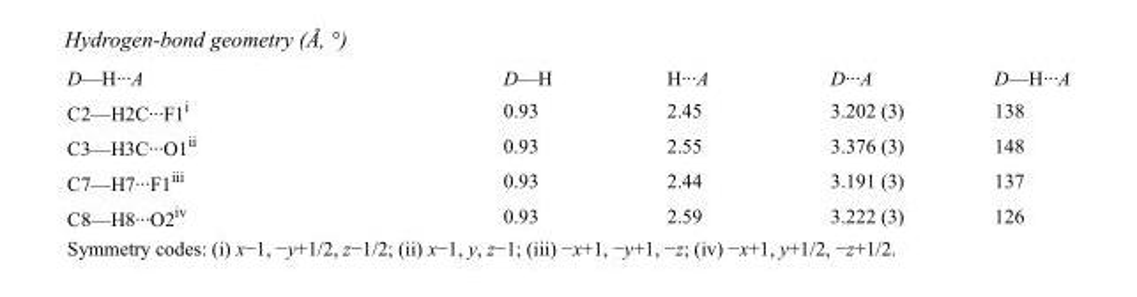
<table><tbody><tr><td>D—H···A</td><td>D—H</td><td>H···A</td><td>D···A</td><td>D—H···A</td></tr><tr><td>C2—H2C···F1<sup>i</sup></td><td>0.93</td><td>2.45</td><td>3.202 (3)</td><td>138</td></tr><tr><td>C3—H3C···O1<sup>ii</sup></td><td>0.93</td><td>2.55</td><td>3.376 (3)</td><td>148</td></tr><tr><td>C7—H7···F1<sup>iii</sup></td><td>0.93</td><td>2.44</td><td>3.191 (3)</td><td>137</td></tr><tr><td>C8—H8···O2<sup>iv</sup></td><td>0.93</td><td>2.59</td><td>3.222 (3)</td><td>126</td></tr></tbody></table>